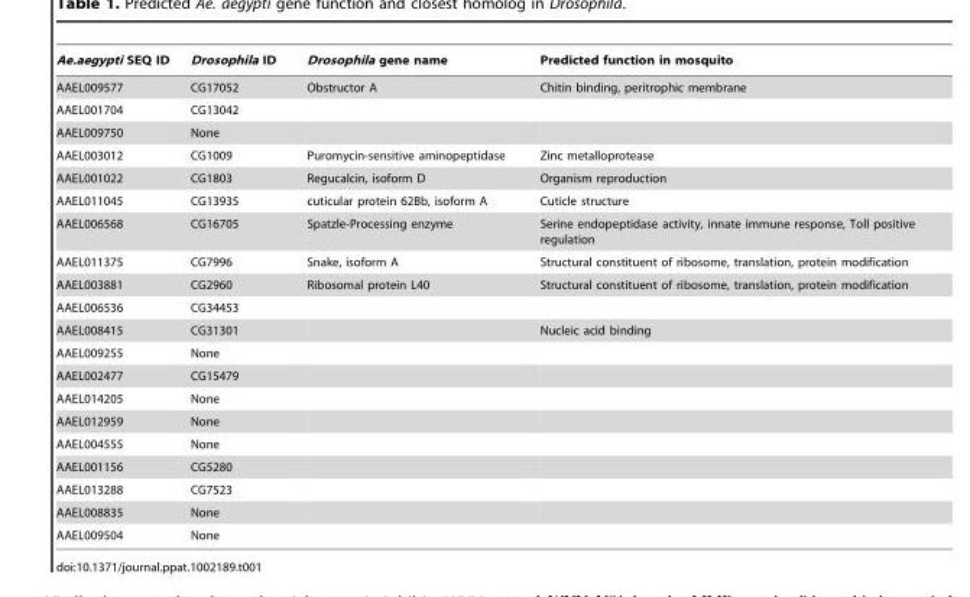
<table><thead><tr><td>Ae.aegypti SEQ ID</td><td>Drosophila ID</td><td>Drosophila gene name</td><td>Predicted function in mosquito</td></tr></thead><tbody><tr><td>AAEL009577</td><td>CG17052</td><td>Obstructor A</td><td>Chitin binding, peritrophic membrane</td></tr><tr><td>AAEL001704</td><td>CG13042</td><td></td><td></td></tr><tr><td>AAEL009750</td><td>None</td><td></td><td></td></tr><tr><td>AAEL003012</td><td>CG1009</td><td>Puromycin-sensitive aminopeptidase</td><td>Zinc metalloprotease</td></tr><tr><td>AAEL001022</td><td>CG1803</td><td>Regucalcin, isoform D</td><td>Organism reproduction</td></tr><tr><td>AAEL011045</td><td>CG13935</td><td>cuticular protein 62Bb, isoform A</td><td>Cuticle structure</td></tr><tr><td>AAEL006568</td><td>CG16705</td><td>Spatzle-Processing enzyme</td><td>Serine endopeptidase activity, innate immune response, Toll positive regulation</td></tr><tr><td>AAEL011375</td><td>CG7996</td><td>Snake, isoform A</td><td>Structural constituent of ribosome, translation, protein modification</td></tr><tr><td>AAEL003881</td><td>CG2960</td><td>Ribosomal protein L40</td><td>Structural constituent of ribosome, translation, protein modification</td></tr><tr><td>AAEL006536</td><td>CG34453</td><td></td><td></td></tr><tr><td>AAEL008415</td><td>CG31301</td><td></td><td>Nucleic acid binding</td></tr><tr><td>AAEL009255</td><td>None</td><td></td><td></td></tr><tr><td>AAEL002477</td><td>CG15479</td><td></td><td></td></tr><tr><td>AAEL014205</td><td>None</td><td></td><td></td></tr><tr><td>AAEL012959</td><td>None</td><td></td><td></td></tr><tr><td>AAEL004555</td><td>None</td><td></td><td></td></tr><tr><td>AAEL001156</td><td>CG5280</td><td></td><td></td></tr><tr><td>AAEL013288</td><td>CG7523</td><td></td><td></td></tr><tr><td>AAEL008835</td><td>None</td><td></td><td></td></tr><tr><td>AAEL009504</td><td>None</td><td></td><td></td></tr></tbody></table>